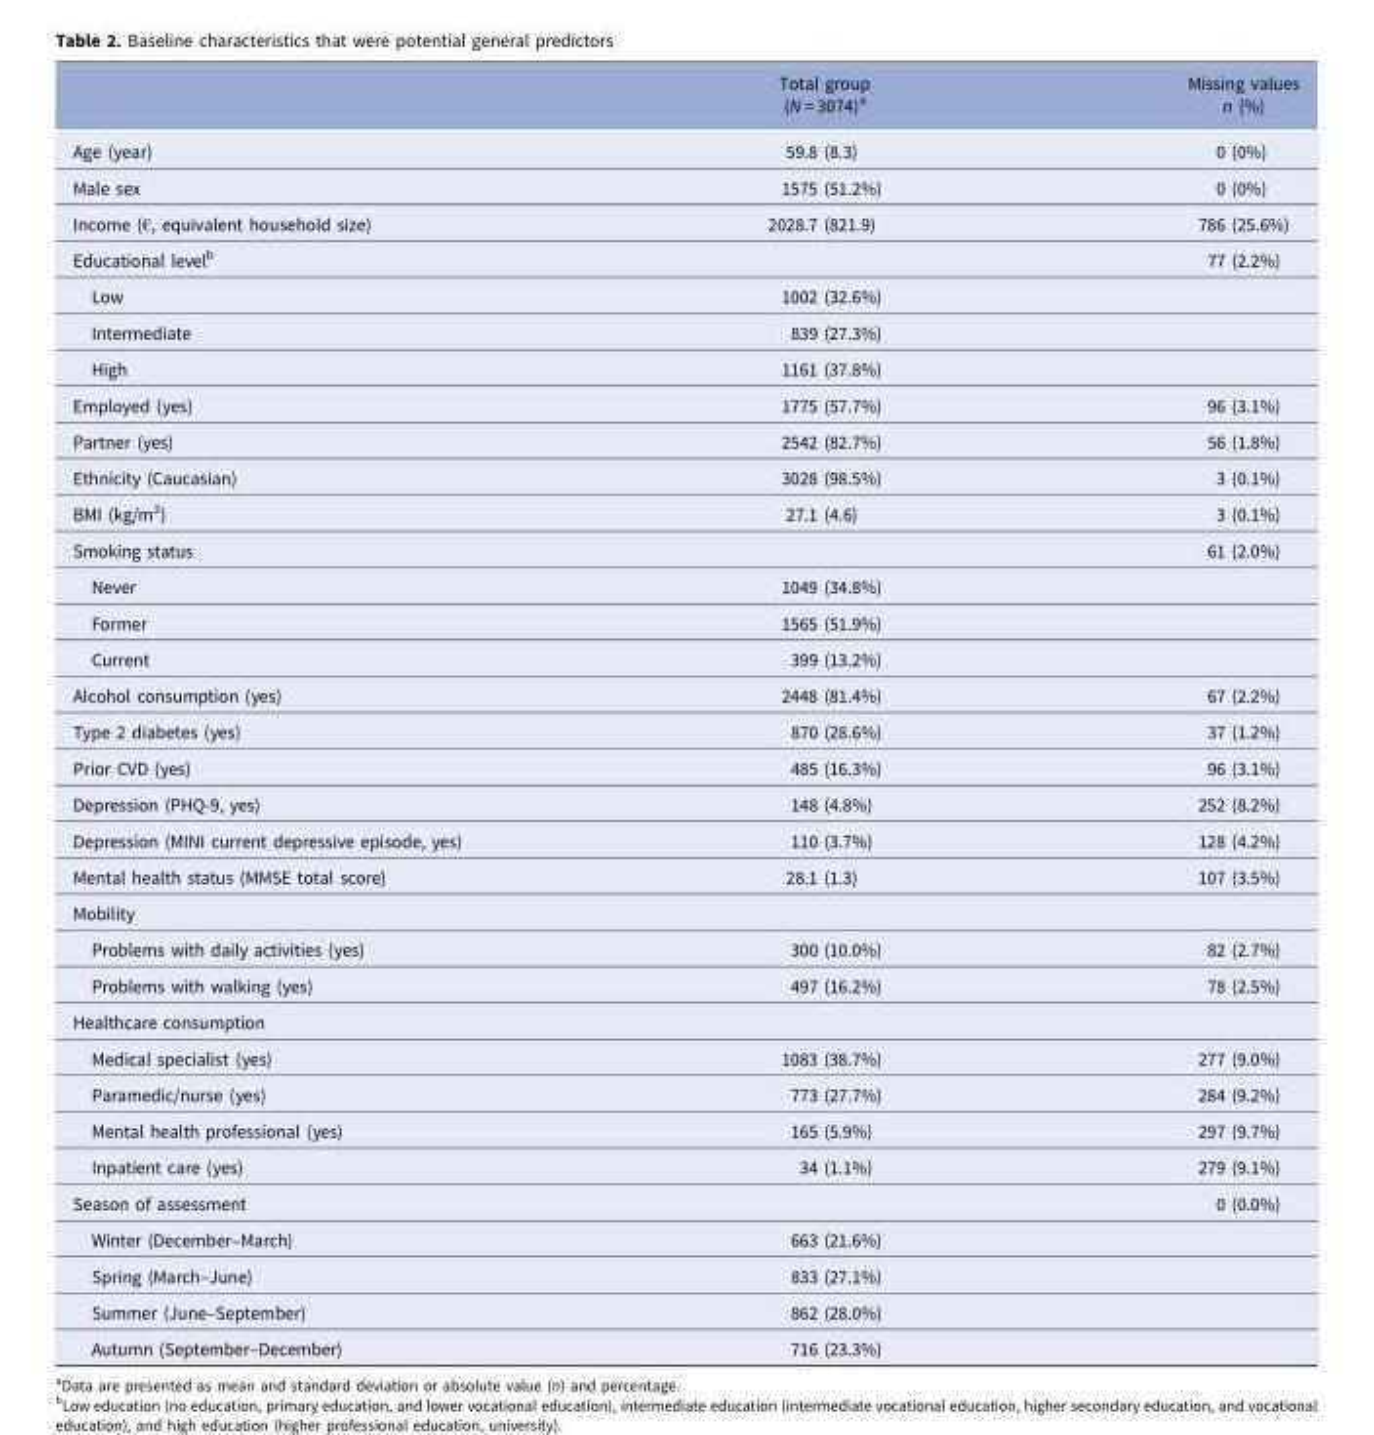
<table><thead><tr><td></td><td>Total group (N = 3074)<sup>a</sup></td><td>Missing values n (%)</td></tr></thead><tbody><tr><td>Age (year)</td><td>59.8 (8.3)</td><td>0 (0%)</td></tr><tr><td>Male sex</td><td>1575 (51.2%)</td><td>0 (0%)</td></tr><tr><td>Income (€, equivalent household size)</td><td>2028.7 (821.9)</td><td>786 (25.6%)</td></tr><tr><td>Educational level<sup>b</sup></td><td></td><td>77 (2.2%)</td></tr><tr><td>Low</td><td>1002 (32.6%)</td><td></td></tr><tr><td>Intermediate</td><td>839 (27.3%)</td><td></td></tr><tr><td>High</td><td>1161 (37.8%)</td><td></td></tr><tr><td>Employed (yes)</td><td>1775 (57.7%)</td><td>96 (3.1%)</td></tr><tr><td>Partner (yes)</td><td>2542 (82.7%)</td><td>56 (1.8%)</td></tr><tr><td>Ethnicity (Caucasian)</td><td>3028 (98.5%)</td><td>3 (0.1%)</td></tr><tr><td>BMI (kg/m<sup>2</sup>)</td><td>27.1 (4.6)</td><td>3 (0.1%)</td></tr><tr><td>Smoking status</td><td></td><td>61 (2.0%)</td></tr><tr><td>Never</td><td>1049 (34.8%)</td><td></td></tr><tr><td>Former</td><td>1565 (51.9%)</td><td></td></tr><tr><td>Current</td><td>399 (13.2%)</td><td></td></tr><tr><td>Alcohol consumption (yes)</td><td>2448 (81.4%)</td><td>67 (2.2%)</td></tr><tr><td>Type 2 diabetes (yes)</td><td>870 (28.6%)</td><td>37 (1.2%)</td></tr><tr><td>Prior CVD (yes)</td><td>485 (16.3%)</td><td>96 (3.1%)</td></tr><tr><td>Depression (PHQ-9, yes)</td><td>148 (4.8%)</td><td>252 (8.2%)</td></tr><tr><td>Depression (MINI current depressive episode, yes)</td><td>110 (3.7%)</td><td>128 (4.2%)</td></tr><tr><td>Mental health status (MMSE total score)</td><td>28.1 (1.3)</td><td>107 (3.5%)</td></tr><tr><td colspan="3">Mobility</td></tr><tr><td>Problems with daily activities (yes)</td><td>300 (10.0%)</td><td>82 (2.7%)</td></tr><tr><td>Problems with walking (yes)</td><td>497 (16.2%)</td><td>78 (2.5%)</td></tr><tr><td colspan="3">Healthcare consumption</td></tr><tr><td>Medical specialist (yes)</td><td>1083 (38.7%)</td><td>277 (9.0%)</td></tr><tr><td>Paramedic/nurse (yes)</td><td>773 (27.7%)</td><td>284 (9.2%)</td></tr><tr><td>Mental health professional (yes)</td><td>165 (5.9%)</td><td>297 (9.7%)</td></tr><tr><td>Inpatient care (yes)</td><td>34 (1.1%)</td><td>279 (9.1%)</td></tr><tr><td>Season of assessment</td><td></td><td>0 (0.0%)</td></tr><tr><td>Winter (December–March)</td><td>663 (21.6%)</td><td></td></tr><tr><td>Spring (March–June)</td><td>833 (27.1%)</td><td></td></tr><tr><td>Summer (June–September)</td><td>862 (28.0%)</td><td></td></tr><tr><td>Autumn (September–December)</td><td>716 (23.3%)</td><td></td></tr></tbody></table>